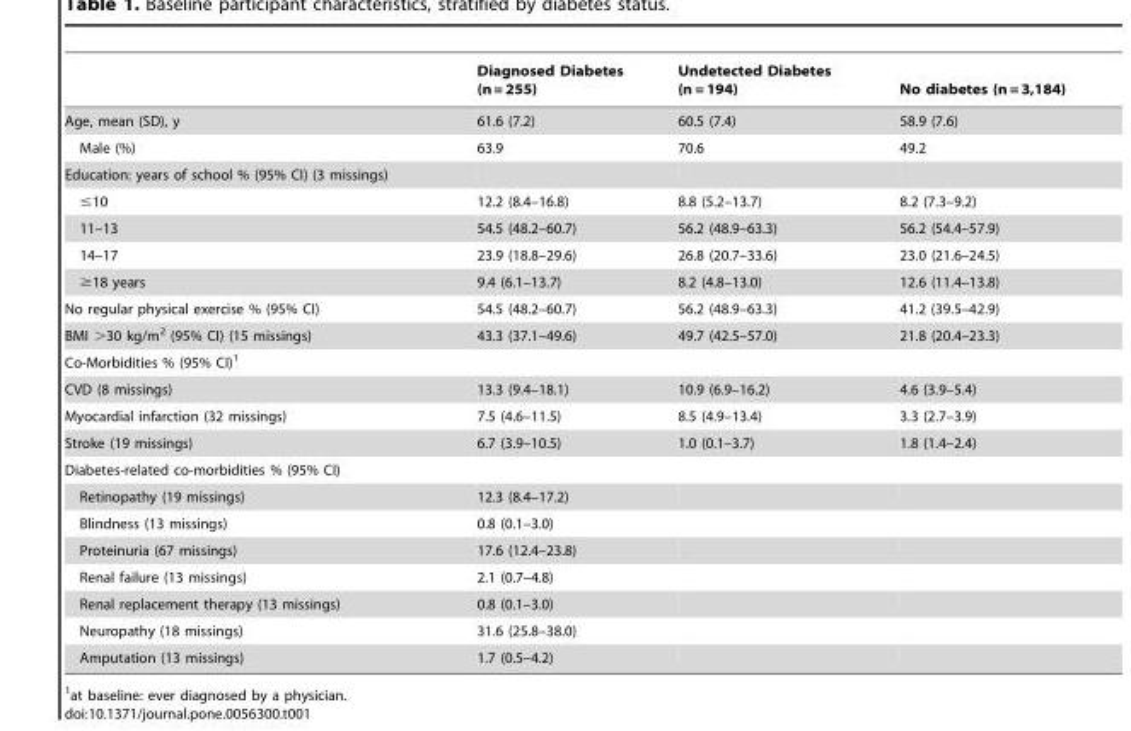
<table><thead><tr><td></td><td>Diagnosed Diabetes (n = 255)</td><td>Undetected Diabetes (n = 194)</td><td>No diabetes (n = 3,184)</td></tr></thead><tbody><tr><td>Age, mean (SD), y</td><td>61.6 (7.2)</td><td>60.5 (7.4)</td><td>58.9 (7.6)</td></tr><tr><td>Male (%)</td><td>63.9</td><td>70.6</td><td>49.2</td></tr><tr><td colspan="4">Education: years of school % (95% CI) (3 missings)</td></tr><tr><td>≤10</td><td>12.2 (8.4–16.8)</td><td>8.8 (5.2–13.7)</td><td>8.2 (7.3–9.2)</td></tr><tr><td>11–13</td><td>54.5 (48.2–60.7)</td><td>56.2 (48.9–63.3)</td><td>56.2 (54.4–57.9)</td></tr><tr><td>14–17</td><td>23.9 (18.8–29.6)</td><td>26.8 (20.7–33.6)</td><td>23.0 (21.6–24.5)</td></tr><tr><td>≥18 years</td><td>9.4 (6.1–13.7)</td><td>8.2 (4.8–13.0)</td><td>12.6 (11.4–13.8)</td></tr><tr><td>No regular physical exercise % (95% CI)</td><td>54.5 (48.2–60.7)</td><td>56.2 (48.9–63.3)</td><td>41.2 (39.5–42.9)</td></tr><tr><td>BMI &gt;30 kg/m<sup>2</sup> (95% CI) (15 missings)</td><td>43.3 (37.1–49.6)</td><td>49.7 (42.5–57.0)</td><td>21.8 (20.4–23.3)</td></tr><tr><td colspan="4">Co-Morbidities % (95% CI)<sup>1</sup></td></tr><tr><td>CVD (8 missings)</td><td>13.3 (9.4–18.1)</td><td>10.9 (6.9–16.2)</td><td>4.6 (3.9–5.4)</td></tr><tr><td>Myocardial infarction (32 missings)</td><td>7.5 (4.6–11.5)</td><td>8.5 (4.9–13.4)</td><td>3.3 (2.7–3.9)</td></tr><tr><td>Stroke (19 missings)</td><td>6.7 (3.9–10.5)</td><td>1.0 (0.1–3.7)</td><td>1.8 (1.4–2.4)</td></tr><tr><td colspan="4">Diabetes-related co-morbidities % (95% CI)</td></tr><tr><td>Retinopathy (19 missings)</td><td>12.3 (8.4–17.2)</td><td></td><td></td></tr><tr><td>Blindness (13 missings)</td><td>0.8 (0.1–3.0)</td><td></td><td></td></tr><tr><td>Proteinuria (67 missings)</td><td>17.6 (12.4–23.8)</td><td></td><td></td></tr><tr><td>Renal failure (13 missings)</td><td>2.1 (0.7–4.8)</td><td></td><td></td></tr><tr><td>Renal replacement therapy (13 missings)</td><td>0.8 (0.1–3.0)</td><td></td><td></td></tr><tr><td>Neuropathy (18 missings)</td><td>31.6 (25.8–38.0)</td><td></td><td></td></tr><tr><td>Amputation (13 missings)</td><td>1.7 (0.5–4.2)</td><td></td><td></td></tr></tbody></table>